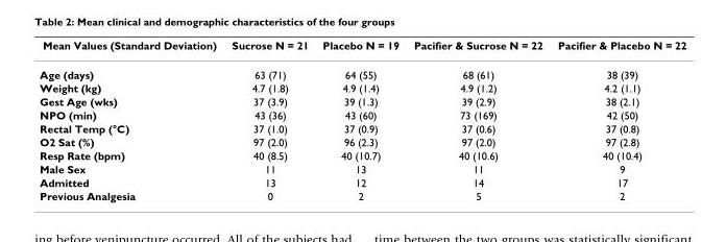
<table><thead><tr><td>Mean Values (Standard Deviation)</td><td>Sucrose N = 21</td><td>Placebo N = 19</td><td>Pacifier &amp; Sucrose N = 22</td><td>Pacifier &amp; Placebo N = 22</td></tr></thead><tbody><tr><td>Age (days)</td><td>63 (71)</td><td>64 (55)</td><td>68 (61)</td><td>38 (39)</td></tr><tr><td>Weight (kg)</td><td>4.7 (1.8)</td><td>4.9 (1.4)</td><td>4.9 (1.2)</td><td>4.2 (1.1)</td></tr><tr><td>Gest Age (wks)</td><td>37 (3.9)</td><td>39 (1.3)</td><td>39 (2.9)</td><td>38 (2.1)</td></tr><tr><td>NPO (min)</td><td>43 (36)</td><td>43 (60)</td><td>73 (169)</td><td>42 (50)</td></tr><tr><td>Rectal Temp (°C)</td><td>37 (1.0)</td><td>37 (0.9)</td><td>37 (0.6)</td><td>37 (0.8)</td></tr><tr><td>O2 Sat (%)</td><td>97 (2.0)</td><td>96 (2.3)</td><td>97 (2.0)</td><td>97 (2.8)</td></tr><tr><td>Resp Rate (bpm)</td><td>40 (8.5)</td><td>40 (10.7)</td><td>40 (10.6)</td><td>40 (10.4)</td></tr><tr><td>Male Sex</td><td>11</td><td>13</td><td>11</td><td>9</td></tr><tr><td>Admitted</td><td>13</td><td>12</td><td>14</td><td>17</td></tr><tr><td>Previous Analgesia</td><td>0</td><td>2</td><td>5</td><td>2</td></tr></tbody></table>